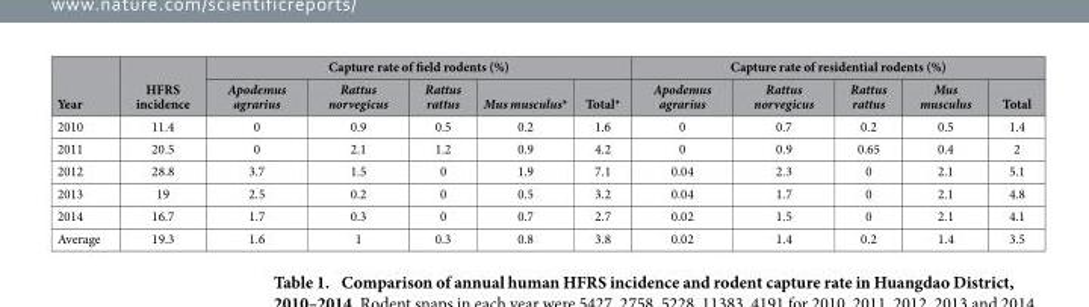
<table><thead><tr><td rowspan="2">Year</td><td rowspan="2">HFRS incidence</td><td colspan="5">Capture rate of field rodents (%)</td><td colspan="5">Capture rate of residential rodents (%)</td></tr><tr><td>Apodemus agrarius</td><td>Rattus norvegicus</td><td>Rattus rattus</td><td>Mus musculus*</td><td>Total*</td><td>Apodemus agrarius</td><td>Rattus norvegicus</td><td>Rattus rattus</td><td>Mus musculus</td><td>Total</td></tr></thead><tbody><tr><td>2010</td><td>11.4</td><td>0</td><td>0.9</td><td>0.5</td><td>0.2</td><td>1.6</td><td>0</td><td>0.7</td><td>0.2</td><td>0.5</td><td>1.4</td></tr><tr><td>2011</td><td>20.5</td><td>0</td><td>2.1</td><td>1.2</td><td>0.9</td><td>4.2</td><td>0</td><td>0.9</td><td>0.65</td><td>0.4</td><td>2</td></tr><tr><td>2012</td><td>28.8</td><td>3.7</td><td>1.5</td><td>0</td><td>1.9</td><td>7.1</td><td>0.04</td><td>2.3</td><td>0</td><td>2.1</td><td>5.1</td></tr><tr><td>2013</td><td>19</td><td>2.5</td><td>0.2</td><td>0</td><td>0.5</td><td>3.2</td><td>0.04</td><td>1.7</td><td>0</td><td>2.1</td><td>4.8</td></tr><tr><td>2014</td><td>16.7</td><td>1.7</td><td>0.3</td><td>0</td><td>0.7</td><td>2.7</td><td>0.02</td><td>1.5</td><td>0</td><td>2.1</td><td>4.1</td></tr><tr><td>Average</td><td>19.3</td><td>1.6</td><td>1</td><td>0.3</td><td>0.8</td><td>3.8</td><td>0.02</td><td>1.4</td><td>0.2</td><td>1.4</td><td>3.5</td></tr></tbody></table>